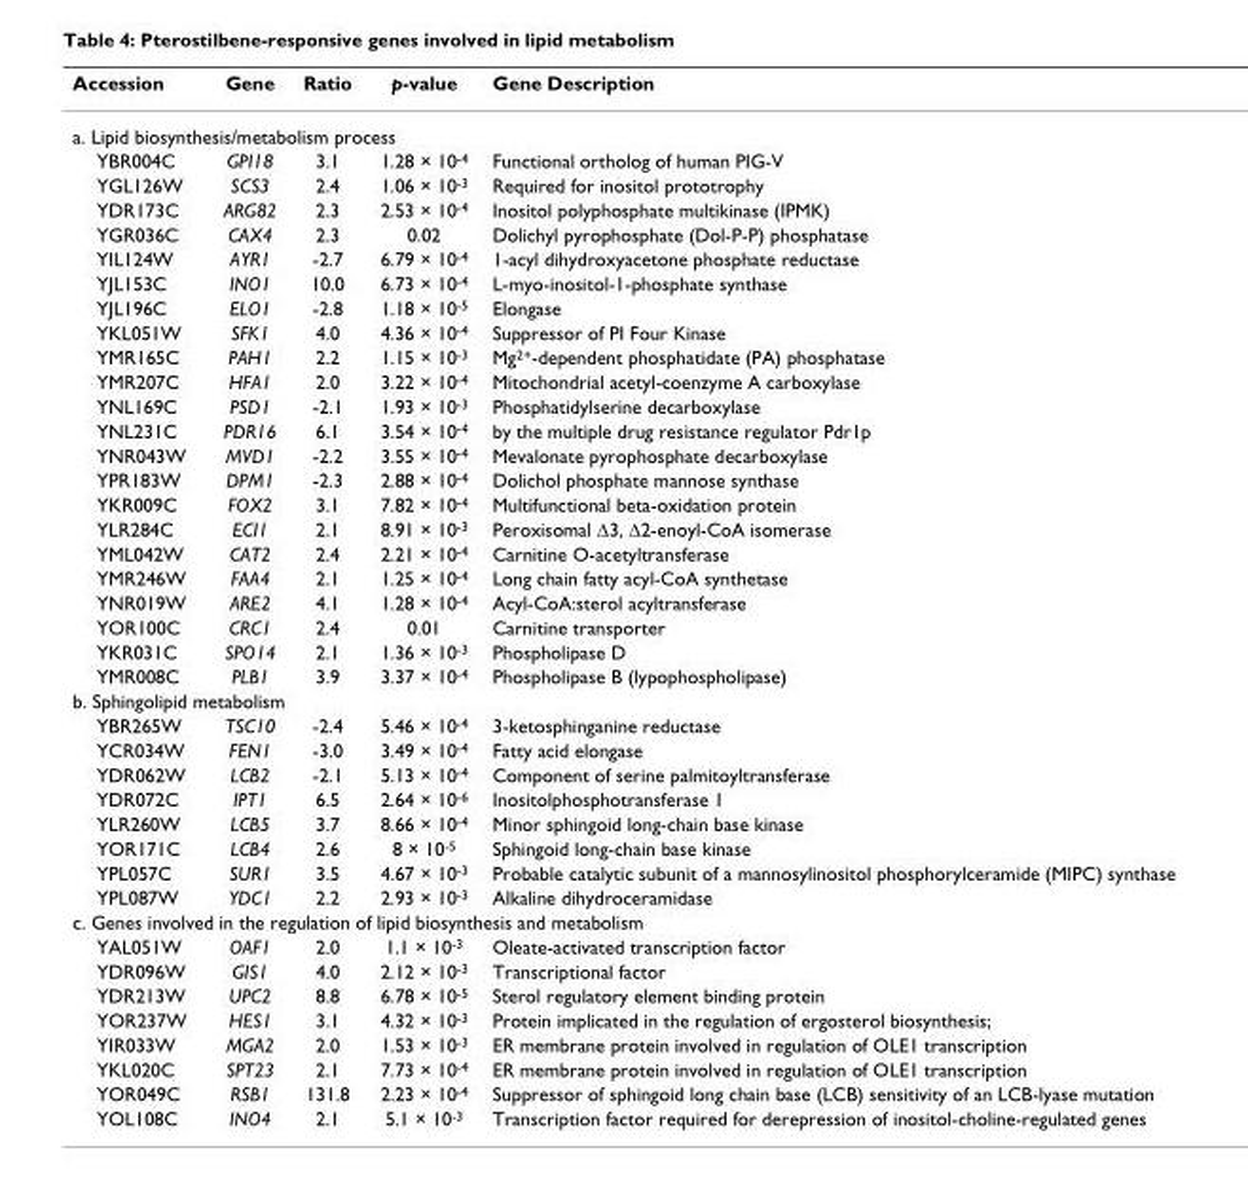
<table><thead><tr><td>Accession</td><td>Gene</td><td>Ratio</td><td>p-value</td><td>Gene Description</td></tr></thead><tbody><tr><td colspan="5">a. Lipid biosynthesis/metabolism process</td></tr><tr><td>YBR004C</td><td>GPI18</td><td>3.1</td><td>1.28 × 10<sup>-4</sup></td><td>Functional ortholog of human PIG-V</td></tr><tr><td>YGL126W</td><td>SCS3</td><td>2.4</td><td>1.06 × 10<sup>-3</sup></td><td>Required for inositol prototrophy</td></tr><tr><td>YDR173C</td><td>ARG82</td><td>2.3</td><td>2.53 × 10<sup>-4</sup></td><td>Inositol polyphosphate multikinase (IPMK)</td></tr><tr><td>YGR036C</td><td>CAX4</td><td>2.3</td><td>0.02</td><td>Dolichyl pyrophosphate (Dol-P-P) phosphatase</td></tr><tr><td>YIL124W</td><td>AYR1</td><td>-2.7</td><td>6.79 × 10<sup>-4</sup></td><td>1-acyl dihydroxyacetone phosphate reductase</td></tr><tr><td>YJL153C</td><td>INO1</td><td>10.0</td><td>6.73 × 10<sup>-4</sup></td><td>L-myo-inositol-1-phosphate synthase</td></tr><tr><td>YJL196C</td><td>ELO1</td><td>-2.8</td><td>1.18 × 10<sup>-5</sup></td><td>Elongase</td></tr><tr><td>YKL051W</td><td>SFK1</td><td>4.0</td><td>4.36 × 10<sup>-4</sup></td><td>Suppressor of PI Four Kinase</td></tr><tr><td>YMR165C</td><td>PAH1</td><td>2.2</td><td>1.15 × 10<sup>-3</sup></td><td>Mg<sup>2+</sup>-dependent phosphatidate (PA) phosphatase</td></tr><tr><td>YMR207C</td><td>HFA1</td><td>2.0</td><td>3.22 × 10<sup>-4</sup></td><td>Mitochondrial acetyl-coenzyme A carboxylase</td></tr><tr><td>YNL169C</td><td>PSD1</td><td>-2.1</td><td>1.93 × 10<sup>-3</sup></td><td>Phosphatidylserine decarboxylase</td></tr><tr><td>YNL231C</td><td>PDR16</td><td>6.1</td><td>3.54 × 10<sup>-4</sup></td><td>by the multiple drug resistance regulator Pdr1p</td></tr><tr><td>YNR043W</td><td>MVD1</td><td>-2.2</td><td>3.55 × 10<sup>-4</sup></td><td>Mevalonate pyrophosphate decarboxylase</td></tr><tr><td>YPR183W</td><td>DPM1</td><td>-2.3</td><td>2.88 × 10<sup>-4</sup></td><td>Dolichol phosphate mannose synthase</td></tr><tr><td>YKR009C</td><td>FOX2</td><td>3.1</td><td>7.82 × 10<sup>-4</sup></td><td>Multifunctional beta-oxidation protein</td></tr><tr><td>YLR284C</td><td>ECI1</td><td>2.1</td><td>8.91 × 10<sup>-3</sup></td><td>Peroxisomal ∆3, ∆2-enoyl-CoA isomerase</td></tr><tr><td>YML042W</td><td>CAT2</td><td>2.4</td><td>2.21 × 10<sup>-4</sup></td><td>Carnitine O-acetyltransferase</td></tr><tr><td>YMR246W</td><td>FAA4</td><td>2.1</td><td>1.25 × 10<sup>-4</sup></td><td>Long chain fatty acyl-CoA synthetase</td></tr><tr><td>YNR019W</td><td>ARE2</td><td>4.1</td><td>1.28 × 10<sup>-4</sup></td><td>Acyl-CoA:sterol acyltransferase</td></tr><tr><td>YOR100C</td><td>CRC1</td><td>2.4</td><td>0.01</td><td>Carnitine transporter</td></tr><tr><td>YKR031C</td><td>SPO14</td><td>2.1</td><td>1.36 × 10<sup>-3</sup></td><td>Phospholipase D</td></tr><tr><td>YMR008C</td><td>PLB1</td><td>3.9</td><td>3.37 × 10<sup>-4</sup></td><td>Phospholipase B (lypophospholipase)</td></tr><tr><td colspan="5">b. Sphingolipid metabolism</td></tr><tr><td>YBR265W</td><td>TSC10</td><td>-2.4</td><td>5.46 × 10<sup>-4</sup></td><td>3-ketosphinganine reductase</td></tr><tr><td>YCR034W</td><td>FEN1</td><td>-3.0</td><td>3.49 × 10<sup>-4</sup></td><td>Fatty acid elongase</td></tr><tr><td>YDR062W</td><td>LCB2</td><td>-2.1</td><td>5.13 × 10<sup>-4</sup></td><td>Component of serine palmitoyltransferase</td></tr><tr><td>YDR072C</td><td>IPT1</td><td>6.5</td><td>2.64 × 10<sup>-6</sup></td><td>Inositolphosphotransferase 1</td></tr><tr><td>YLR260W</td><td>LCB5</td><td>3.7</td><td>8.66 × 10<sup>-4</sup></td><td>Minor sphingoid long-chain base kinase</td></tr><tr><td>YOR171C</td><td>LCB4</td><td>2.6</td><td>8 × 10<sup>-5</sup></td><td>Sphingoid long-chain base kinase</td></tr><tr><td>YPL057C</td><td>SUR1</td><td>3.5</td><td>4.67 × 10<sup>-3</sup></td><td>Probable catalytic subunit of a mannosylinositol phosphorylceramide (MIPC) synthase</td></tr><tr><td>YPL087W</td><td>YDC1</td><td>2.2</td><td>2.93 × 10<sup>-3</sup></td><td>Alkaline dihydroceramidase</td></tr><tr><td colspan="5">c. Genes involved in the regulation of lipid biosynthesis and metabolism</td></tr><tr><td>YAL051W</td><td>OAF1</td><td>2.0</td><td>1.1 × 10<sup>-3</sup></td><td>Oleate-activated transcription factor</td></tr><tr><td>YDR096W</td><td>GIS1</td><td>4.0</td><td>2.12 × 10<sup>-3</sup></td><td>Transcriptional factor</td></tr><tr><td>YDR213W</td><td>UPC2</td><td>8.8</td><td>6.78 × 10<sup>-5</sup></td><td>Sterol regulatory element binding protein</td></tr><tr><td>YOR237W</td><td>HES1</td><td>3.1</td><td>4.32 × 10<sup>-3</sup></td><td>Protein implicated in the regulation of ergosterol biosynthesis;</td></tr><tr><td>YIR033W</td><td>MGA2</td><td>2.0</td><td>1.53 × 10<sup>-3</sup></td><td>ER membrane protein involved in regulation of OLE1 transcription</td></tr><tr><td>YKL020C</td><td>SPT23</td><td>2.1</td><td>7.73 × 10<sup>-4</sup></td><td>ER membrane protein involved in regulation of OLE1 transcription</td></tr><tr><td>YOR049C</td><td>RSB1</td><td>131.8</td><td>2.23 × 10<sup>-4</sup></td><td>Suppressor of sphingoid long chain base (LCB) sensitivity of an LCB-lyase mutation</td></tr><tr><td>YOL108C</td><td>INO4</td><td>2.1</td><td>5.1 × 10<sup>-3</sup></td><td>Transcription factor required for derepression of inositol-choline-regulated genes</td></tr></tbody></table>